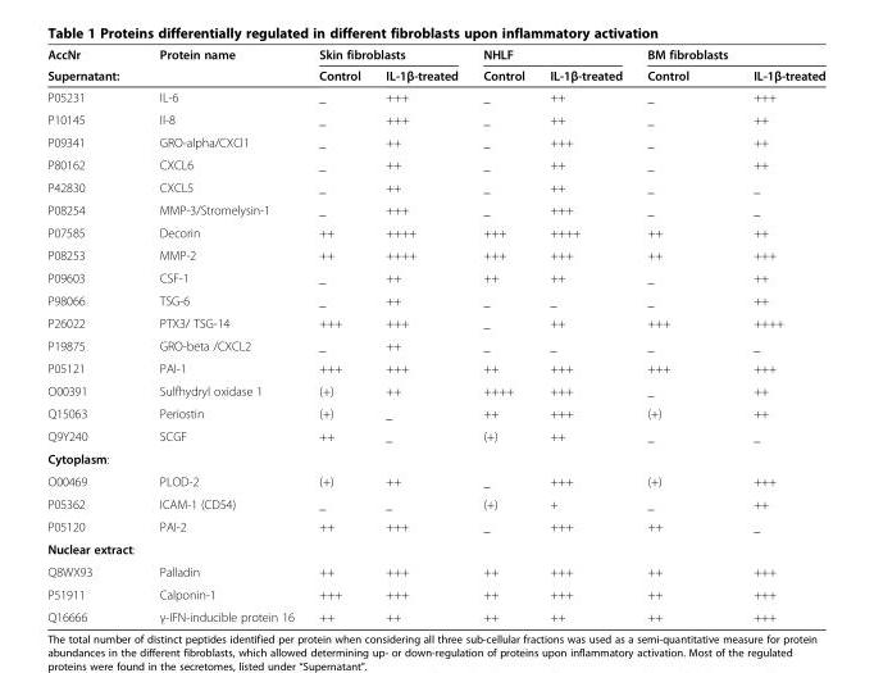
<table><thead><tr><td rowspan="2">AccNr Supernatant:</td><td rowspan="2">Protein name</td><td colspan="2">Skin fibroblasts</td><td rowspan="2">NHLF Control</td><td rowspan="2">IL-1β-treated</td><td rowspan="2">BM fibroblasts Control</td><td rowspan="2">IL-1β-treated</td></tr><tr><td>Control</td><td>IL-1β-treated</td></tr></thead><tbody><tr><td>P05231</td><td>IL-6</td><td>_</td><td>+++</td><td>_</td><td>++</td><td>_</td><td>+++</td></tr><tr><td>P10145</td><td>Il-8</td><td>_</td><td>+++</td><td>_</td><td>++</td><td>_</td><td>++</td></tr><tr><td>P09341</td><td>GRO-alpha/CXCl1</td><td>_</td><td>++</td><td>_</td><td>+++</td><td>_</td><td>++</td></tr><tr><td>P80162</td><td>CXCL6</td><td>_</td><td>++</td><td>_</td><td>++</td><td>_</td><td>++</td></tr><tr><td>P42830</td><td>CXCL5</td><td>_</td><td>++</td><td>_</td><td>++</td><td>_</td><td>_</td></tr><tr><td>P08254</td><td>MMP-3/Stromelysin-1</td><td>_</td><td>+++</td><td>_</td><td>+++</td><td>_</td><td>_</td></tr><tr><td>P07585</td><td>Decorin</td><td>++</td><td>++++</td><td>+++</td><td>++++</td><td>++</td><td>++</td></tr><tr><td>P08253</td><td>MMP-2</td><td>++</td><td>++++</td><td>+++</td><td>+++</td><td>++</td><td>+++</td></tr><tr><td>P09603</td><td>CSF-1</td><td>_</td><td>++</td><td>++</td><td>++</td><td>_</td><td>++</td></tr><tr><td>P98066</td><td>TSG-6</td><td>_</td><td>++</td><td>_</td><td>_</td><td>_</td><td>++</td></tr><tr><td>P26022</td><td>PTX3/ TSG-14</td><td>+++</td><td>+++</td><td>_</td><td>++</td><td>+++</td><td>++++</td></tr><tr><td>P19875</td><td>GRO-beta /CXCL2</td><td>_</td><td>++</td><td>_</td><td>_</td><td>_</td><td>_</td></tr><tr><td>P05121</td><td>PAI-1</td><td>+++</td><td>+++</td><td>++</td><td>+++</td><td>+++</td><td>+++</td></tr><tr><td>O00391</td><td>Sulfhydryl oxidase 1</td><td>(+)</td><td>++</td><td>++++</td><td>+++</td><td>_</td><td>++</td></tr><tr><td>Q15063</td><td>Periostin</td><td>(+)</td><td>_</td><td>++</td><td>+++</td><td>(+)</td><td>++</td></tr><tr><td>Q9Y240</td><td>SCGF</td><td>++</td><td>_</td><td>(+)</td><td>++</td><td>_</td><td>_</td></tr><tr><td colspan="8">Cytoplasm:</td></tr><tr><td>O00469</td><td>PLOD-2</td><td>(+)</td><td>++</td><td>_</td><td>+++</td><td>(+)</td><td>+++</td></tr><tr><td>P05362</td><td>ICAM-1 (CD54)</td><td>_</td><td>_</td><td>(+)</td><td>+</td><td>_</td><td>++</td></tr><tr><td>P05120</td><td>PAI-2</td><td>++</td><td>+++</td><td>_</td><td>+++</td><td>++</td><td>_</td></tr><tr><td colspan="8">Nuclear extract:</td></tr><tr><td>Q8WX93</td><td>Palladin</td><td>++</td><td>+++</td><td>++</td><td>+++</td><td>++</td><td>+++</td></tr><tr><td>P51911</td><td>Calponin-1</td><td>+++</td><td>+++</td><td>++</td><td>+++</td><td>++</td><td>+++</td></tr><tr><td>Q16666</td><td>γ-IFN-inducible protein 16</td><td>++</td><td>++</td><td>++</td><td>++</td><td>++</td><td>+++</td></tr></tbody></table>